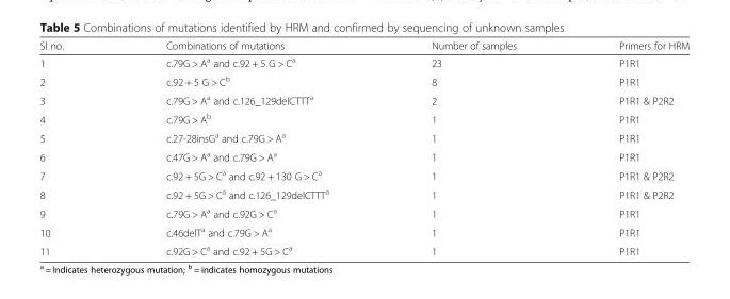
<table><thead><tr><td>Sl no.</td><td>Combinations of mutations</td><td>Number of samples</td><td>Primers for HRM</td></tr></thead><tbody><tr><td>1</td><td>c.79G &gt; A<sup>a</sup> and c.92 + 5 G &gt; C<sup>a</sup></td><td>23</td><td>P1R1</td></tr><tr><td>2</td><td>c.92 + 5 G &gt; C<sup>b</sup></td><td>8</td><td>P1R1</td></tr><tr><td>3</td><td>c.79G &gt; A<sup>a</sup> and c.126_129delCTTT<sup>a</sup></td><td>2</td><td>P1R1 &amp; P2R2</td></tr><tr><td>4</td><td>c.79G &gt; A<sup>b</sup></td><td>1</td><td>P1R1</td></tr><tr><td>5</td><td>c.27-28insG<sup>a</sup> and c.79G &gt; A<sup>a</sup></td><td>1</td><td>P1R1</td></tr><tr><td>6</td><td>c.47G &gt; A<sup>a</sup> and c.79G &gt; A<sup>a</sup></td><td>1</td><td>P1R1</td></tr><tr><td>7</td><td>c.92 + 5G &gt; C<sup>a</sup> and c.92 + 130 G &gt; C<sup>a</sup></td><td>1</td><td>P1R1 &amp; P2R2</td></tr><tr><td>8</td><td>c.92 + 5G &gt; C<sup>a</sup> and c.126_129delCTTT<sup>a</sup></td><td>1</td><td>P1R1 &amp; P2R2</td></tr><tr><td>9</td><td>c.79G &gt; A<sup>a</sup> and c.92G &gt; C<sup>a</sup></td><td>1</td><td>P1R1</td></tr><tr><td>10</td><td>c.46delT<sup>a</sup> and c.79G &gt; A<sup>a</sup></td><td>1</td><td>P1R1</td></tr><tr><td>11</td><td>c.92G &gt; C<sup>a</sup> and c.92 + 5G &gt; C<sup>a</sup></td><td>1</td><td>P1R1</td></tr></tbody></table>